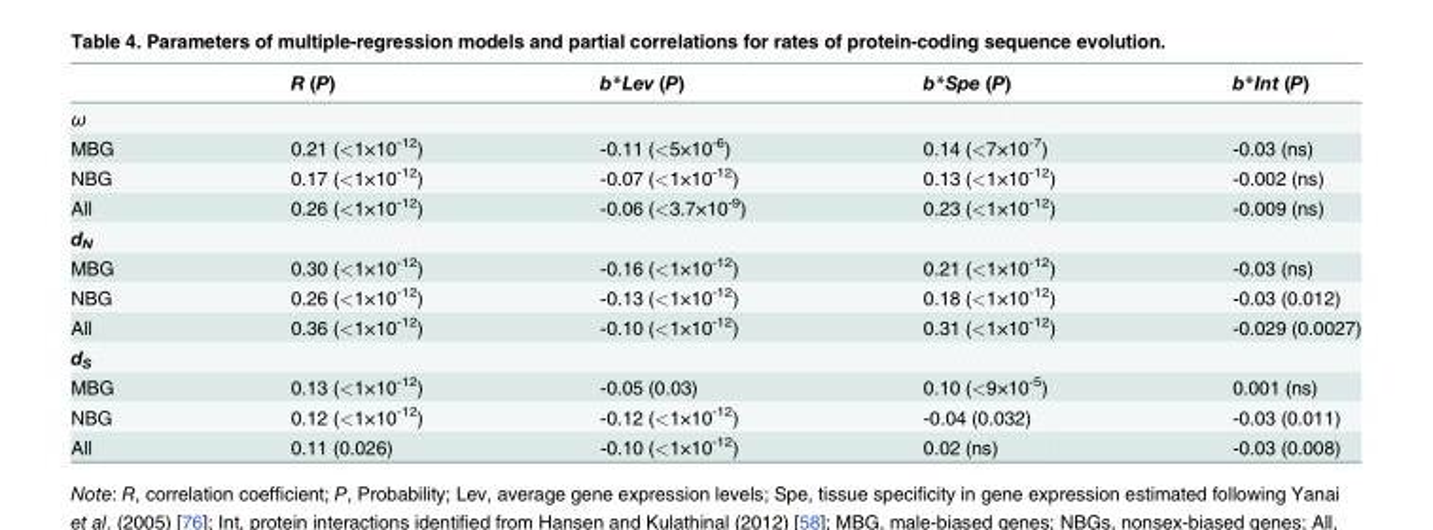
<table><thead><tr><td></td><td>R (P)</td><td>b*Lev (P)</td><td>b*Spe (P)</td><td>b*Int (P)</td></tr></thead><tbody><tr><td colspan="5">ω</td></tr><tr><td>MBG</td><td>0.21 (&lt;1×10<sup>-12</sup>)</td><td>-0.11 (&lt;5×10<sup>-6</sup>)</td><td>0.14 (&lt;7×10<sup>-7</sup>)</td><td>-0.03 (ns)</td></tr><tr><td>NBG</td><td>0.17 (&lt;1×10<sup>-12</sup>)</td><td>-0.07 (&lt;1×10<sup>-12</sup>)</td><td>0.13 (&lt;1×10<sup>-12</sup>)</td><td>-0.002 (ns)</td></tr><tr><td>All</td><td>0.26 (&lt;1×10<sup>-12</sup>)</td><td>-0.06 (&lt;3.7×10<sup>-9</sup>)</td><td>0.23 (&lt;1×10<sup>-12</sup>)</td><td>-0.009 (ns)</td></tr><tr><td colspan="5">d<sub>N</sub></td></tr><tr><td>MBG</td><td>0.30 (&lt;1×10<sup>-12</sup>)</td><td>-0.16 (&lt;1×10<sup>-12</sup>)</td><td>0.21 (&lt;1×10<sup>-12</sup>)</td><td>-0.03 (ns)</td></tr><tr><td>NBG</td><td>0.26 (&lt;1×10<sup>-12</sup>)</td><td>-0.13 (&lt;1×10<sup>-12</sup>)</td><td>0.18 (&lt;1×10<sup>-12</sup>)</td><td>-0.03 (0.012)</td></tr><tr><td>All</td><td>0.36 (&lt;1×10<sup>-12</sup>)</td><td>-0.10 (&lt;1×10<sup>-12</sup>)</td><td>0.31 (&lt;1×10<sup>-12</sup>)</td><td>-0.029 (0.0027)</td></tr><tr><td colspan="5">d<sub>S</sub></td></tr><tr><td>MBG</td><td>0.13 (&lt;1×10<sup>-12</sup>)</td><td>-0.05 (0.03)</td><td>0.10 (&lt;9×10<sup>-5</sup>)</td><td>0.001 (ns)</td></tr><tr><td>NBG</td><td>0.12 (&lt;1×10<sup>-12</sup>)</td><td>-0.12 (&lt;1×10<sup>-12</sup>)</td><td>-0.04 (0.032)</td><td>-0.03 (0.011)</td></tr><tr><td>All</td><td>0.11 (0.026)</td><td>-0.10 (&lt;1×10<sup>-12</sup>)</td><td>0.02 (ns)</td><td>-0.03 (0.008)</td></tr></tbody></table>